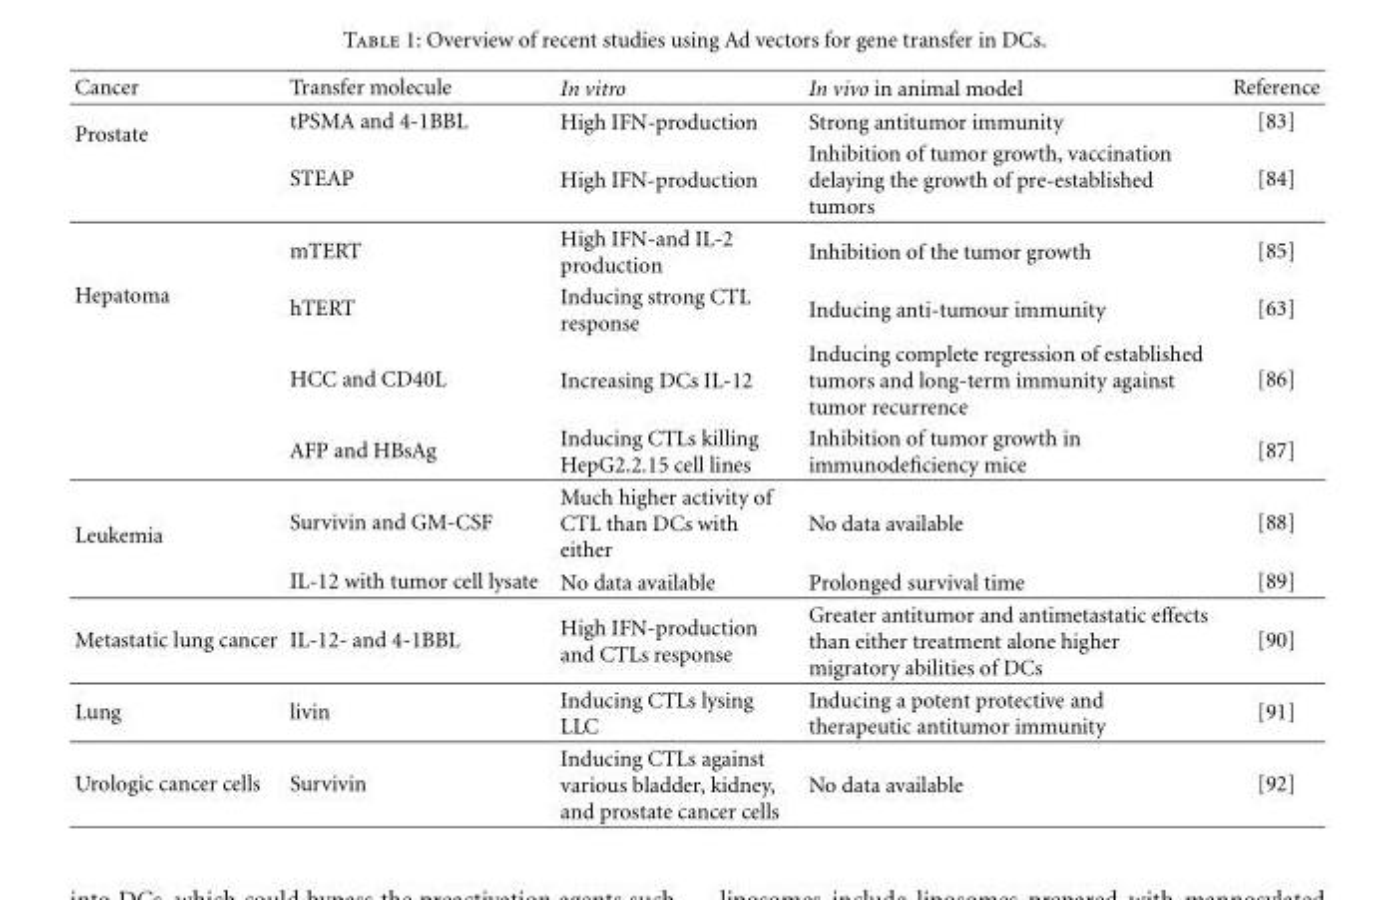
<table><thead><tr><td>Cancer</td><td>Transfer molecule</td><td>In vitro</td><td>In vivo in animal model</td><td>Reference</td></tr></thead><tbody><tr><td rowspan="2">Prostate</td><td>tPSMA and 4-1BBL</td><td>High IFN-production</td><td>Strong antitumor immunity</td><td>[83]</td></tr><tr><td>STEAP</td><td>High IFN-production</td><td>Inhibition of tumor growth, vaccination delaying the growth of pre-established tumors</td><td>[84]</td></tr><tr><td rowspan="4">Hepatoma</td><td>mTERT</td><td>High IFN-and IL-2 production</td><td>Inhibition of the tumor growth</td><td>[85]</td></tr><tr><td>hTERT</td><td>Inducing strong CTL response</td><td>Inducing anti-tumour immunity</td><td>[63]</td></tr><tr><td>HCC and CD40L</td><td>Increasing DCs IL-12</td><td>Inducing complete regression of established tumors and long-term immunity against tumor recurrence</td><td>[86]</td></tr><tr><td>AFP and HBsAg</td><td>Inducing CTLs killing HepG2.2.15 cell lines</td><td>Inhibition of tumor growth in immunodeficiency mice</td><td>[87]</td></tr><tr><td rowspan="2">Leukemia</td><td>Survivin and GM-CSF</td><td>Much higher activity of CTL than DCs with either</td><td>No data available</td><td>[88]</td></tr><tr><td>IL-12 with tumor cell lysate</td><td>No data available</td><td>Prolonged survival time</td><td>[89]</td></tr><tr><td>Metastatic lung cancer</td><td>IL-12- and 4-1BBL</td><td>High IFN-production and CTLs response</td><td>Greater antitumor and antimetastatic effects than either treatment alone higher migratory abilities of DCs</td><td>[90]</td></tr><tr><td>Lung</td><td>livin</td><td>Inducing CTLs lysing LLC</td><td>Inducing a potent protective and therapeutic antitumor immunity</td><td>[91]</td></tr><tr><td>Urologic cancer cells</td><td>Survivin</td><td>Inducing CTLs against various bladder, kidney, and prostate cancer cells</td><td>No data available</td><td>[92]</td></tr></tbody></table>